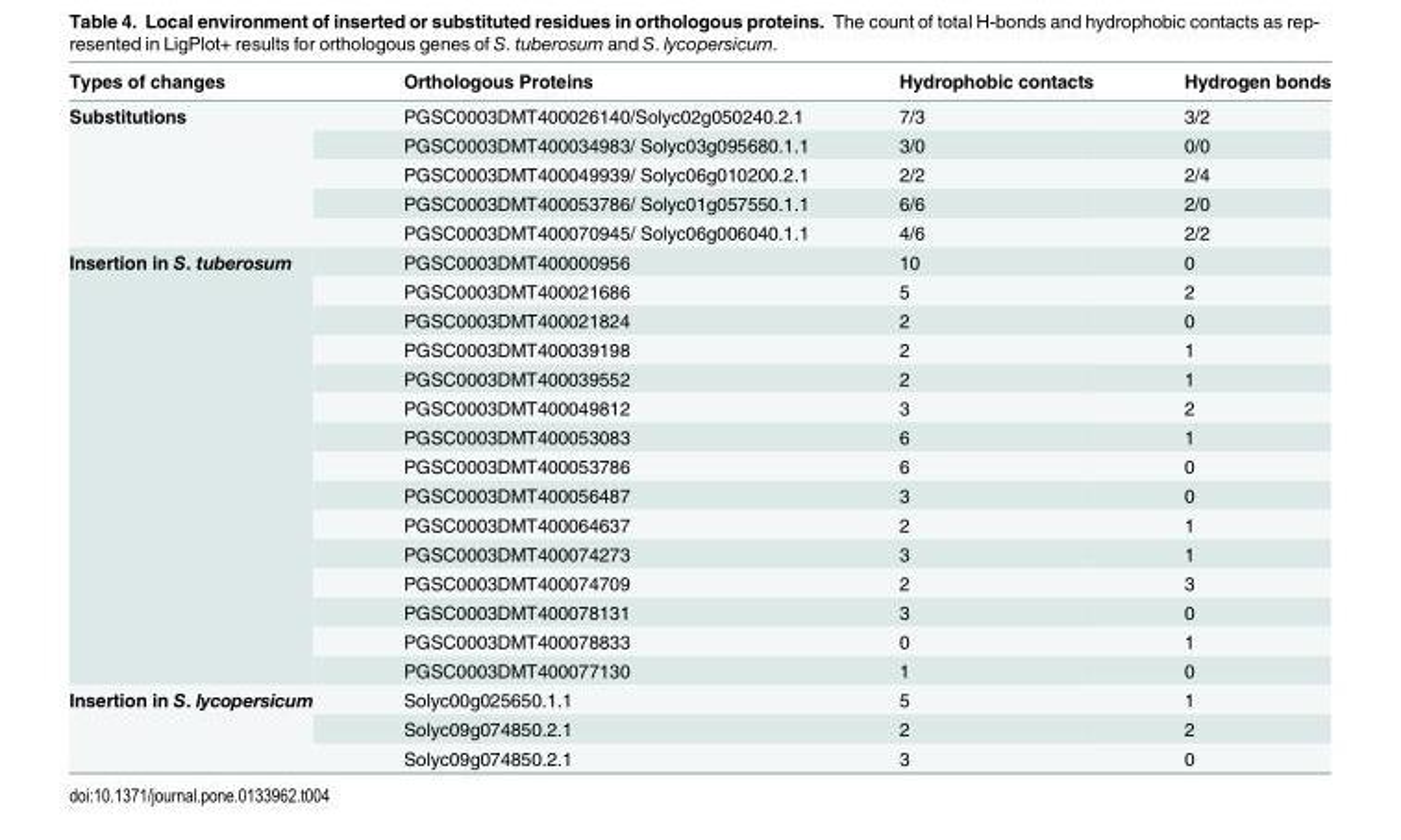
<table><thead><tr><td>Types of changes</td><td>Orthologous Proteins</td><td>Hydrophobic contacts</td><td>Hydrogen bonds</td></tr></thead><tbody><tr><td rowspan="5">Substitutions</td><td>PGSC0003DMT400026140/Solyc02g050240.2.1</td><td>7/3</td><td>3/2</td></tr><tr><td>PGSC0003DMT400034983/ Solyc03g095680.1.1</td><td>3/0</td><td>0/0</td></tr><tr><td>PGSC0003DMT400049939/ Solyc06g010200.2.1</td><td>2/2</td><td>2/4</td></tr><tr><td>PGSC0003DMT400053786/ Solyc01g057550.1.1</td><td>6/6</td><td>2/0</td></tr><tr><td>PGSC0003DMT400070945/ Solyc06g006040.1.1</td><td>4/6</td><td>2/2</td></tr><tr><td rowspan="15">Insertion in S. tuberosum</td><td>PGSC0003DMT400000956</td><td>10</td><td>0</td></tr><tr><td>PGSC0003DMT400021686</td><td>5</td><td>2</td></tr><tr><td>PGSC0003DMT400021824</td><td>2</td><td>0</td></tr><tr><td>PGSC0003DMT400039198</td><td>2</td><td>1</td></tr><tr><td>PGSC0003DMT400039552</td><td>2</td><td>1</td></tr><tr><td>PGSC0003DMT400049812</td><td>3</td><td>2</td></tr><tr><td>PGSC0003DMT400053083</td><td>6</td><td>1</td></tr><tr><td>PGSC0003DMT400053786</td><td>6</td><td>0</td></tr><tr><td>PGSC0003DMT400056487</td><td>3</td><td>0</td></tr><tr><td>PGSC0003DMT400064637</td><td>2</td><td>1</td></tr><tr><td>PGSC0003DMT400074273</td><td>3</td><td>1</td></tr><tr><td>PGSC0003DMT400074709</td><td>2</td><td>3</td></tr><tr><td>PGSC0003DMT400078131</td><td>3</td><td>0</td></tr><tr><td>PGSC0003DMT400078833</td><td>0</td><td>1</td></tr><tr><td>PGSC0003DMT400077130</td><td>1</td><td>0</td></tr><tr><td rowspan="3">Insertion in S. lycopersicum</td><td>Solyc00g025650.1.1</td><td>5</td><td>1</td></tr><tr><td>Solyc09g074850.2.1</td><td>2</td><td>2</td></tr><tr><td>Solyc09g074850.2.1</td><td>3</td><td>0</td></tr></tbody></table>